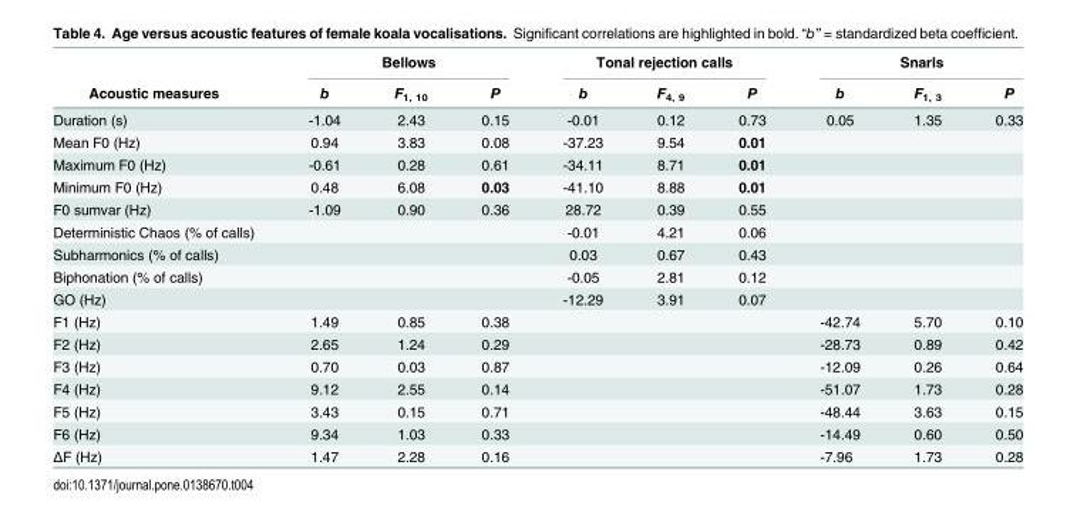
<table><thead><tr><td rowspan="2">Acoustic measures</td><td colspan="3">Bellows</td><td colspan="3">Tonal rejection calls</td><td colspan="3">Snarls</td></tr><tr><td>b</td><td>F<sub>1, 10</sub></td><td>P</td><td>b</td><td>F<sub>4, 9</sub></td><td>P</td><td>b</td><td>F<sub>1, 3</sub></td><td>P</td></tr></thead><tbody><tr><td>Duration (s)</td><td>-1.04</td><td>2.43</td><td>0.15</td><td>-0.01</td><td>0.12</td><td>0.73</td><td>0.05</td><td>1.35</td><td>0.33</td></tr><tr><td>Mean F0 (Hz)</td><td>0.94</td><td>3.83</td><td>0.08</td><td>-37.23</td><td>9.54</td><td>0.01</td><td></td><td></td><td></td></tr><tr><td>Maximum F0 (Hz)</td><td>-0.61</td><td>0.28</td><td>0.61</td><td>-34.11</td><td>8.71</td><td>0.01</td><td></td><td></td><td></td></tr><tr><td>Minimum F0 (Hz)</td><td>0.48</td><td>6.08</td><td>0.03</td><td>-41.10</td><td>8.88</td><td>0.01</td><td></td><td></td><td></td></tr><tr><td>F0 sumvar (Hz)</td><td>-1.09</td><td>0.90</td><td>0.36</td><td>28.72</td><td>0.39</td><td>0.55</td><td></td><td></td><td></td></tr><tr><td>Deterministic Chaos (% of calls)</td><td></td><td></td><td></td><td>-0.01</td><td>4.21</td><td>0.06</td><td></td><td></td><td></td></tr><tr><td>Subharmonics (% of calls)</td><td></td><td></td><td></td><td>0.03</td><td>0.67</td><td>0.43</td><td></td><td></td><td></td></tr><tr><td>Biphonation (% of calls)</td><td></td><td></td><td></td><td>-0.05</td><td>2.81</td><td>0.12</td><td></td><td></td><td></td></tr><tr><td>GO (Hz)</td><td></td><td></td><td></td><td>-12.29</td><td>3.91</td><td>0.07</td><td></td><td></td><td></td></tr><tr><td>F1 (Hz)</td><td>1.49</td><td>0.85</td><td>0.38</td><td></td><td></td><td></td><td>-42.74</td><td>5.70</td><td>0.10</td></tr><tr><td>F2 (Hz)</td><td>2.65</td><td>1.24</td><td>0.29</td><td></td><td></td><td></td><td>-28.73</td><td>0.89</td><td>0.42</td></tr><tr><td>F3 (Hz)</td><td>0.70</td><td>0.03</td><td>0.87</td><td></td><td></td><td></td><td>-12.09</td><td>0.26</td><td>0.64</td></tr><tr><td>F4 (Hz)</td><td>9.12</td><td>2.55</td><td>0.14</td><td></td><td></td><td></td><td>-51.07</td><td>1.73</td><td>0.28</td></tr><tr><td>F5 (Hz)</td><td>3.43</td><td>0.15</td><td>0.71</td><td></td><td></td><td></td><td>-48.44</td><td>3.63</td><td>0.15</td></tr><tr><td>F6 (Hz)</td><td>9.34</td><td>1.03</td><td>0.33</td><td></td><td></td><td></td><td>-14.49</td><td>0.60</td><td>0.50</td></tr><tr><td>ΔF (Hz)</td><td>1.47</td><td>2.28</td><td>0.16</td><td></td><td></td><td></td><td>-7.96</td><td>1.73</td><td>0.28</td></tr></tbody></table>